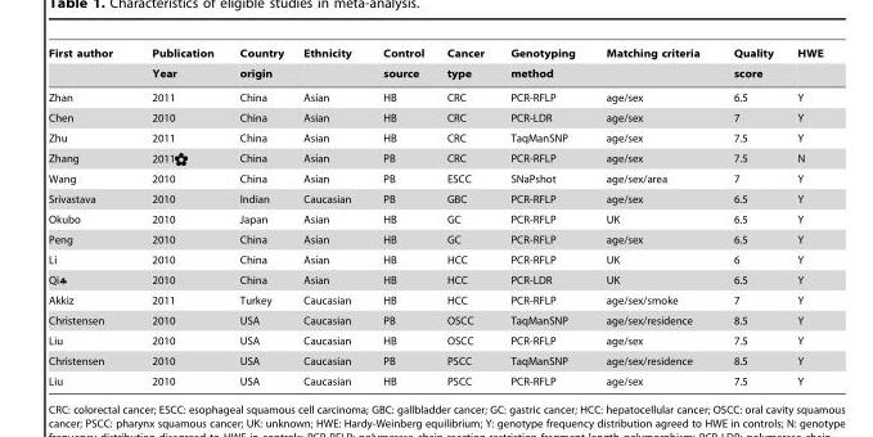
<table><thead><tr><td rowspan="2">First author</td><td rowspan="2">Publication Year</td><td rowspan="2">Country origin</td><td rowspan="2">Ethnicity</td><td rowspan="2">Control source</td><td rowspan="2">Cancer type</td><td rowspan="2">Genotyping method</td><td rowspan="2">Matching criteria</td><td rowspan="2">Quality score</td><td rowspan="2">HWE</td></tr><tr></tr></thead><tbody><tr><td>Zhan</td><td>2011</td><td>China</td><td>Asian</td><td>HB</td><td>CRC</td><td>PCR-RFLP</td><td>age/sex</td><td>6.5</td><td>Y</td></tr><tr><td>Chen</td><td>2010</td><td>China</td><td>Asian</td><td>HB</td><td>CRC</td><td>PCR-LDR</td><td>age/sex</td><td>7</td><td>Y</td></tr><tr><td>Zhu</td><td>2011</td><td>China</td><td>Asian</td><td>HB</td><td>CRC</td><td>TaqManSNP</td><td>age/sex</td><td>7.5</td><td>Y</td></tr><tr><td>Zhang</td><td>2011</td><td>China</td><td>Asian</td><td>PB</td><td>CRC</td><td>PCR-RFLP</td><td>age/sex</td><td>7.5</td><td>N</td></tr><tr><td>Wang</td><td>2010</td><td>China</td><td>Asian</td><td>PB</td><td>ESCC</td><td>SNaPshot</td><td>age/sex/area</td><td>7</td><td>Y</td></tr><tr><td>Srivastava</td><td>2010</td><td>Indian</td><td>Caucasian</td><td>PB</td><td>GBC</td><td>PCR-RFLP</td><td>age/sex</td><td>6.5</td><td>Y</td></tr><tr><td>Okubo</td><td>2010</td><td>Japan</td><td>Asian</td><td>HB</td><td>GC</td><td>PCR-RFLP</td><td>UK</td><td>6.5</td><td>Y</td></tr><tr><td>Peng</td><td>2010</td><td>China</td><td>Asian</td><td>HB</td><td>GC</td><td>PCR-RFLP</td><td>age/sex</td><td>6.5</td><td>Y</td></tr><tr><td>Li</td><td>2010</td><td>China</td><td>Asian</td><td>HB</td><td>HCC</td><td>PCR-RFLP</td><td>UK</td><td>6</td><td>Y</td></tr><tr><td>Qi§</td><td>2010</td><td>China</td><td>Asian</td><td>HB</td><td>HCC</td><td>PCR-LDR</td><td>UK</td><td>6.5</td><td>Y</td></tr><tr><td>Akkiz</td><td>2011</td><td>Turkey</td><td>Caucasian</td><td>HB</td><td>HCC</td><td>PCR-RFLP</td><td>age/sex/smoke</td><td>7</td><td>Y</td></tr><tr><td>Christensen</td><td>2010</td><td>USA</td><td>Caucasian</td><td>PB</td><td>OSCC</td><td>TaqManSNP</td><td>age/sex/residence</td><td>8.5</td><td>Y</td></tr><tr><td>Liu</td><td>2010</td><td>USA</td><td>Caucasian</td><td>HB</td><td>OSCC</td><td>PCR-RFLP</td><td>age/sex</td><td>7.5</td><td>Y</td></tr><tr><td>Christensen</td><td>2010</td><td>USA</td><td>Caucasian</td><td>PB</td><td>PSCC</td><td>TaqManSNP</td><td>age/sex/residence</td><td>8.5</td><td>Y</td></tr><tr><td>Liu</td><td>2010</td><td>USA</td><td>Caucasian</td><td>HB</td><td>PSCC</td><td>PCR-RFLP</td><td>age/sex</td><td>7.5</td><td>Y</td></tr></tbody></table>